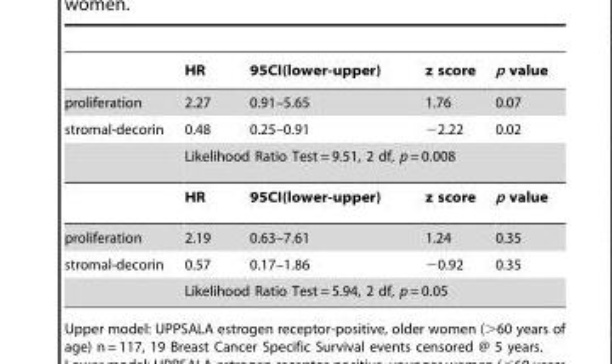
<table><thead><tr><td></td><td>HR</td><td>95CI(lower-upper)</td><td>z score</td><td>p value</td></tr></thead><tbody><tr><td>proliferation</td><td>2.27</td><td>0.91–5.65</td><td>1.76</td><td>0.07</td></tr><tr><td rowspan="3">stromal-decorin</td><td>0.48</td><td>0.25–0.91</td><td>−2.22</td><td>0.02</td></tr><tr><td colspan="4">Likelihood Ratio Test = 9.51, 2 df, p = 0.008</td></tr><tr><td>HR</td><td>95CI(lower-upper)</td><td>z score</td><td>p value</td></tr><tr><td>proliferation</td><td>2.19</td><td>0.63–7.61</td><td>1.24</td><td>0.35</td></tr><tr><td rowspan="2">stromal-decorin</td><td>0.57</td><td>0.17–1.86</td><td>−0.92</td><td>0.35</td></tr><tr><td colspan="4">Likelihood Ratio Test = 5.94, 2 df, p = 0.05</td></tr></tbody></table>